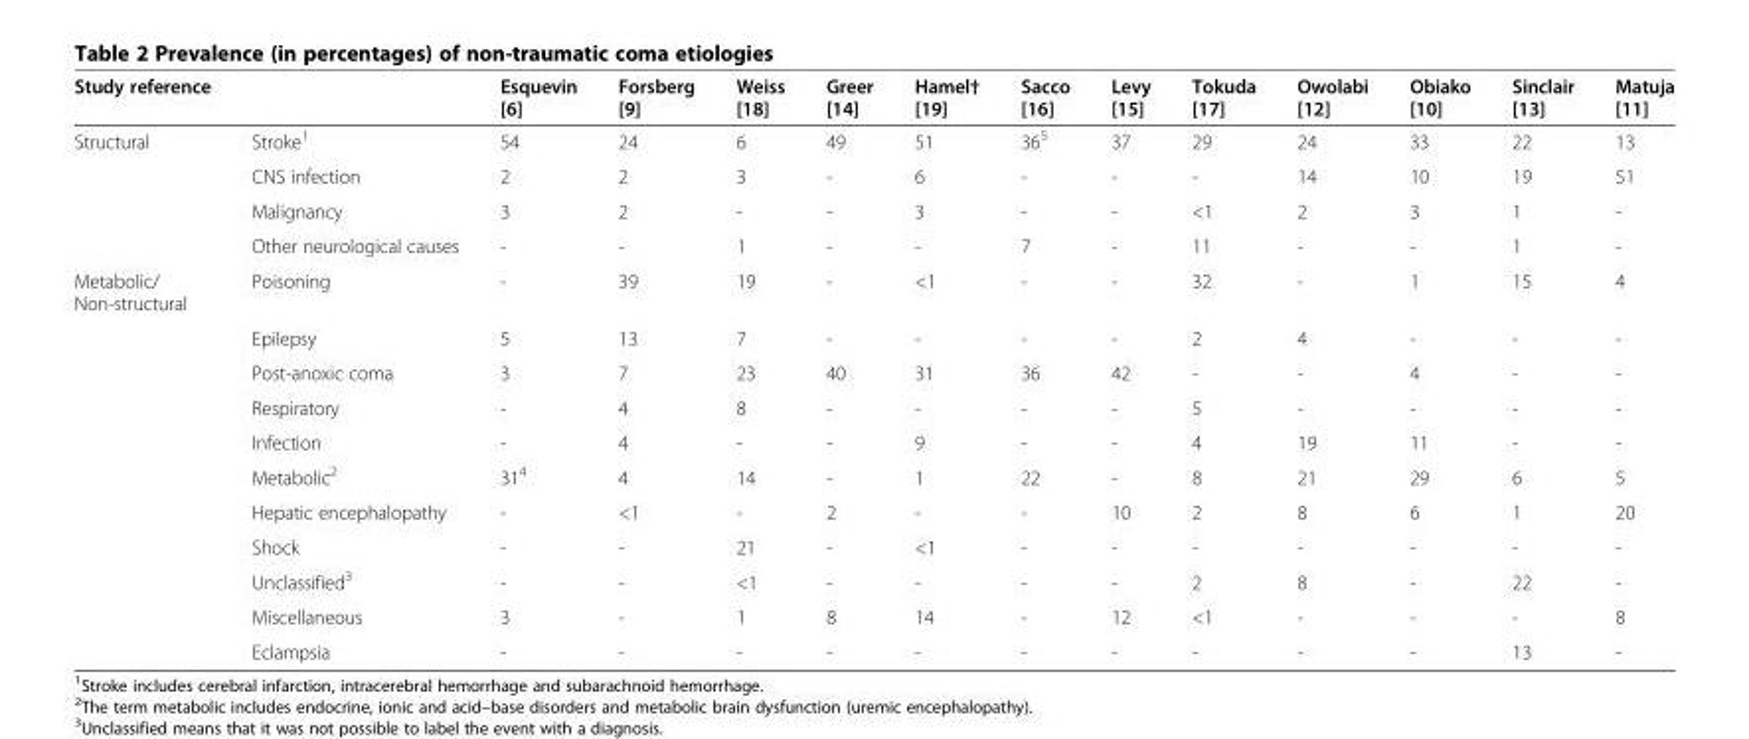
<table><thead><tr><td>Study reference</td><td></td><td>Esquevin [6]</td><td>Forsberg [9]</td><td>Weiss [18]</td><td>Greer [14]</td><td>Hamel† [19]</td><td>Sacco [16]</td><td>Levy [15]</td><td>Tokuda [17]</td><td>Owolabi [12]</td><td>Obiako [10]</td><td>Sinclair [13]</td><td>Matuja [11]</td></tr></thead><tbody><tr><td rowspan="4">Structural</td><td>Stroke<sup>1</sup></td><td>54</td><td>24</td><td>6</td><td>49</td><td>51</td><td>36<sup>5</sup></td><td>37</td><td>29</td><td>24</td><td>33</td><td>22</td><td>13</td></tr><tr><td>CNS infection</td><td>2</td><td>2</td><td>3</td><td>-</td><td>6</td><td>-</td><td>-</td><td>-</td><td>14</td><td>10</td><td>19</td><td>51</td></tr><tr><td>Malignancy</td><td>3</td><td>2</td><td>-</td><td>-</td><td>3</td><td>-</td><td>-</td><td>&lt;1</td><td>2</td><td>3</td><td>1</td><td>-</td></tr><tr><td>Other neurological causes</td><td>-</td><td>-</td><td>1</td><td>-</td><td>-</td><td>7</td><td>-</td><td>11</td><td>-</td><td>-</td><td>1</td><td>-</td></tr><tr><td rowspan="11">Metabolic/ Non-structural</td><td>Poisoning</td><td>-</td><td>39</td><td>19</td><td>-</td><td>&lt;1</td><td>-</td><td>-</td><td>32</td><td>-</td><td>1</td><td>15</td><td>4</td></tr><tr><td>Epilepsy</td><td>5</td><td>13</td><td>7</td><td>-</td><td>-</td><td>-</td><td>-</td><td>2</td><td>4</td><td>-</td><td>-</td><td>-</td></tr><tr><td>Post-anoxic coma</td><td>3</td><td>7</td><td>23</td><td>40</td><td>31</td><td>36</td><td>42</td><td>-</td><td>-</td><td>4</td><td>-</td><td>-</td></tr><tr><td>Respiratory</td><td>-</td><td>4</td><td>8</td><td>-</td><td>-</td><td>-</td><td>-</td><td>5</td><td>-</td><td>-</td><td>-</td><td>-</td></tr><tr><td>Infection</td><td>-</td><td>4</td><td>-</td><td>-</td><td>9</td><td>-</td><td>-</td><td>4</td><td>19</td><td>11</td><td>-</td><td>-</td></tr><tr><td>Metabolic<sup>2</sup></td><td>31<sup>4</sup></td><td>4</td><td>14</td><td>-</td><td>1</td><td>22</td><td>-</td><td>8</td><td>21</td><td>29</td><td>6</td><td>5</td></tr><tr><td>Hepatic encephalopathy</td><td>-</td><td>&lt;1</td><td>-</td><td>2</td><td>-</td><td>-</td><td>10</td><td>2</td><td>8</td><td>6</td><td>1</td><td>20</td></tr><tr><td>Shock</td><td>-</td><td>-</td><td>21</td><td>-</td><td>&lt;1</td><td>-</td><td>-</td><td>-</td><td>-</td><td>-</td><td>-</td><td>-</td></tr><tr><td>Unclassified<sup>3</sup></td><td>-</td><td>-</td><td>&lt;1</td><td>-</td><td>-</td><td>-</td><td>-</td><td>2</td><td>8</td><td>-</td><td>22</td><td>-</td></tr><tr><td>Miscellaneous</td><td>3</td><td>-</td><td>1</td><td>8</td><td>14</td><td>-</td><td>12</td><td>&lt;1</td><td>-</td><td>-</td><td>-</td><td>8</td></tr><tr><td>Eclampsia</td><td>-</td><td>-</td><td>-</td><td>-</td><td>-</td><td>-</td><td>-</td><td>-</td><td>-</td><td>-</td><td>13</td><td>-</td></tr></tbody></table>